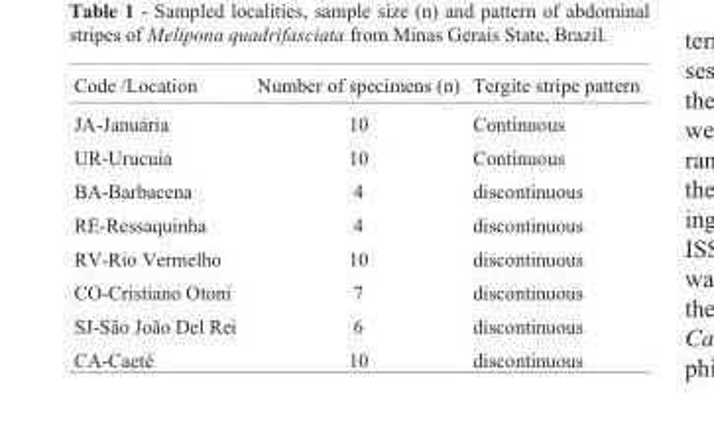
<table><thead><tr><td>Code /Location</td><td>Number of specimens (n)</td><td>Tergite stripe pattern</td></tr></thead><tbody><tr><td>JA-Januária</td><td>10</td><td>Continuous</td></tr><tr><td>UR-Urucuia</td><td>10</td><td>Continuous</td></tr><tr><td>BA-Barbacena</td><td>4</td><td>discontinuous</td></tr><tr><td>RE-Ressaquinha</td><td>4</td><td>discontinuous</td></tr><tr><td>RV-Rio Vermelho</td><td>10</td><td>discontinuous</td></tr><tr><td>CO-Cristiano Otoni</td><td>7</td><td>discontinuous</td></tr><tr><td>SJ-São João Del Rei</td><td>6</td><td>discontinuous</td></tr><tr><td>CA-Caeté</td><td>10</td><td>discontinuous</td></tr></tbody></table>